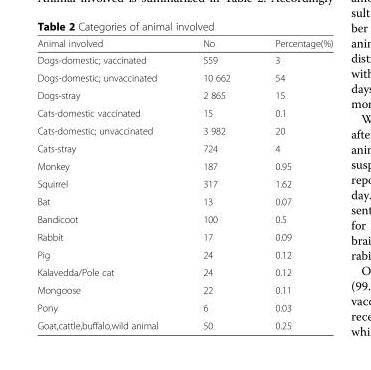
<table><thead><tr><td>Animal involved</td><td>No</td><td>Percentage(%)</td></tr></thead><tbody><tr><td>Dogs-domestic; vaccinated</td><td>559</td><td>3</td></tr><tr><td>Dogs-domestic; unvaccinated</td><td>10 662</td><td>54</td></tr><tr><td>Dogs-stray</td><td>2 865</td><td>15</td></tr><tr><td>Cats-domestic vaccinated</td><td>15</td><td>0.1</td></tr><tr><td>Cats-domestic; unvaccinated</td><td>3 982</td><td>20</td></tr><tr><td>Cats-stray</td><td>724</td><td>4</td></tr><tr><td>Monkey</td><td>187</td><td>0.95</td></tr><tr><td>Squirrel</td><td>317</td><td>1.62</td></tr><tr><td>Bat</td><td>13</td><td>0.07</td></tr><tr><td>Bandicoot</td><td>100</td><td>0.5</td></tr><tr><td>Rabbit</td><td>17</td><td>0.09</td></tr><tr><td>Pig</td><td>24</td><td>0.12</td></tr><tr><td>Kalavedda/Pole cat</td><td>24</td><td>0.12</td></tr><tr><td>Mongoose</td><td>22</td><td>0.11</td></tr><tr><td>Pony</td><td>6</td><td>0.03</td></tr><tr><td>Goat,cattle,buffalo,wild animal</td><td>50</td><td>0.25</td></tr></tbody></table>